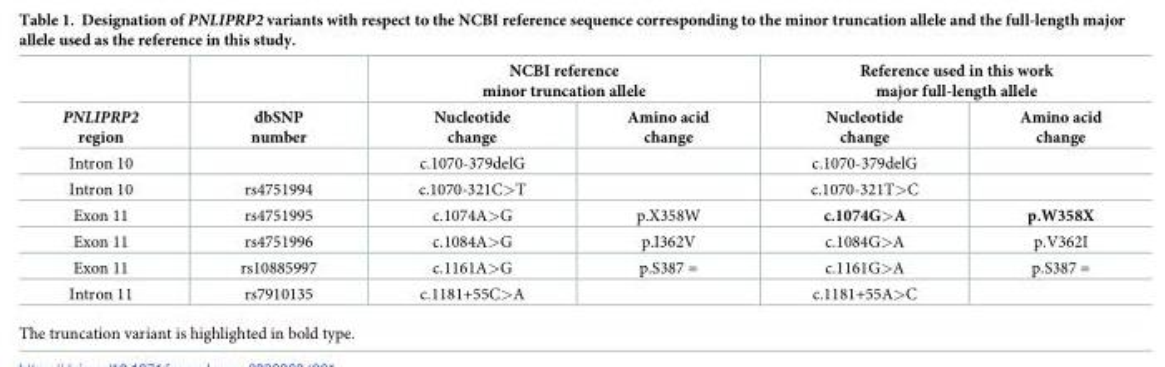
<table><thead><tr><td rowspan="2">PNLIPRP2 region</td><td rowspan="2">dbSNP number</td><td colspan="2">NCBI reference minor truncation allele</td><td colspan="2">Reference used in this work major full-length allele</td></tr><tr><td>Nucleotide change</td><td>Amino acid change</td><td>Nucleotide change</td><td>Amino acid change</td></tr></thead><tbody><tr><td>Intron 10</td><td></td><td>c.1070-379delG</td><td></td><td>c.1070-379delG</td><td></td></tr><tr><td>Intron 10</td><td>rs4751994</td><td>c.1070-321C&gt;T</td><td></td><td>c.1070-321T&gt;C</td><td></td></tr><tr><td>Exon 11</td><td>rs4751995</td><td>c.1074A&gt;G</td><td>p.X358W</td><td>c.1074G&gt;A</td><td>p.W358X</td></tr><tr><td>Exon 11</td><td>rs4751996</td><td>c.1084A&gt;G</td><td>p.I362V</td><td>c.1084G&gt;A</td><td>p.V362I</td></tr><tr><td>Exon 11</td><td>rs10885997</td><td>c.1161A&gt;G</td><td>p.S387 =</td><td>c.1161G&gt;A</td><td>p.S387 =</td></tr><tr><td>Intron 11</td><td>rs7910135</td><td>c.1181+55C&gt;A</td><td></td><td>c.1181+55A&gt;C</td><td></td></tr></tbody></table>